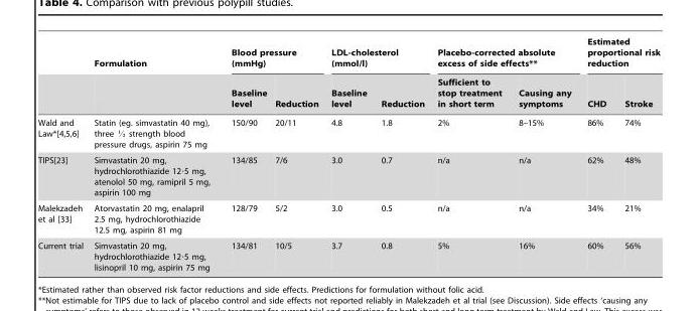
<table><thead><tr><td rowspan="2"></td><td rowspan="2">Formulation</td><td colspan="2">Blood pressure (mmHg)</td><td colspan="2">LDL-cholesterol (mmol/l)</td><td colspan="2">Placebo-corrected absolute excess of side effects**</td><td colspan="2">Estimated proportional risk reduction</td></tr><tr><td>Baseline level</td><td>Reduction</td><td>Baseline level</td><td>Reduction</td><td>Sufficient to stop treatment in short term</td><td>Causing any symptoms</td><td>CHD</td><td>Stroke</td></tr></thead><tbody><tr><td>Wald and Law*[4,5,6]</td><td>Statin (eg. simvastatin 40 mg), three K strength blood pressure drugs, aspirin 75 mg</td><td>150/90</td><td>20/11</td><td>4.8</td><td>1.8</td><td>2%</td><td>8–15%</td><td>86%</td><td>74%</td></tr><tr><td>TIPS[23]</td><td>Simvastatin 20 mg, hydrochlorothiazide 12·5 mg, atenolol 50 mg, ramipril 5 mg, aspirin 100 mg</td><td>134/85</td><td>7/6</td><td>3.0</td><td>0.7</td><td>n/a</td><td>n/a</td><td>62%</td><td>48%</td></tr><tr><td>Malekzadeh et al [33]</td><td>Atorvastatin 20 mg, enalapril 2.5 mg, hydrochlorothiazide 12.5 mg, aspirin 81 mg</td><td>128/79</td><td>5/2</td><td>3.0</td><td>0.5</td><td>n/a</td><td>n/a</td><td>34%</td><td>21%</td></tr><tr><td>Current trial</td><td>Simvastatin 20 mg, hydrochlorothiazide 12·5 mg, lisinopril 10 mg, aspirin 75 mg</td><td>134/81</td><td>10/5</td><td>3.7</td><td>0.8</td><td>5%</td><td>16%</td><td>60%</td><td>56%</td></tr></tbody></table>